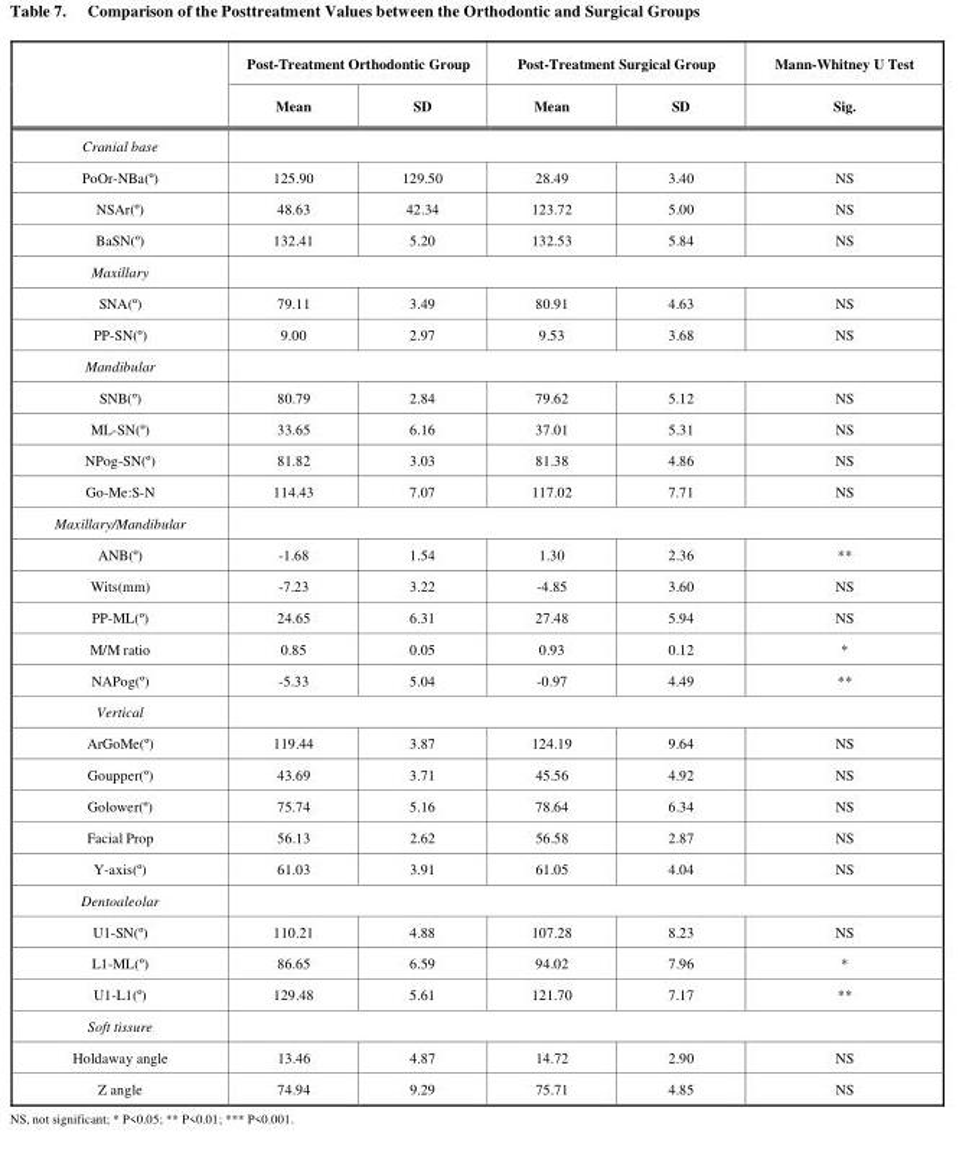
<table><thead><tr><td rowspan="2"></td><td colspan="2">Post-Treatment Orthodontic Group</td><td colspan="2">Post-Treatment Surgical Group</td><td rowspan="2">Mann-Whitney U Test Sig.</td></tr><tr><td>Mean</td><td>SD</td><td>Mean</td><td>SD</td></tr></thead><tbody><tr><td colspan="6">Cranial base</td></tr><tr><td>PoOr-NBa(º)</td><td>125.90</td><td>129.50</td><td>28.49</td><td>3.40</td><td>NS</td></tr><tr><td>NSAr(º)</td><td>48.63</td><td>42.34</td><td>123.72</td><td>5.00</td><td>NS</td></tr><tr><td>BaSN(º)</td><td>132.41</td><td>5.20</td><td>132.53</td><td>5.84</td><td>NS</td></tr><tr><td colspan="6">Maxillary</td></tr><tr><td>SNA(º)</td><td>79.11</td><td>3.49</td><td>80.91</td><td>4.63</td><td>NS</td></tr><tr><td>PP-SN(º)</td><td>9.00</td><td>2.97</td><td>9.53</td><td>3.68</td><td>NS</td></tr><tr><td colspan="6">Mandibular</td></tr><tr><td>SNB(º)</td><td>80.79</td><td>2.84</td><td>79.62</td><td>5.12</td><td>NS</td></tr><tr><td>ML-SN(º)</td><td>33.65</td><td>6.16</td><td>37.01</td><td>5.31</td><td>NS</td></tr><tr><td>NPog-SN(º)</td><td>81.82</td><td>3.03</td><td>81.38</td><td>4.86</td><td>NS</td></tr><tr><td>Go-Me:S-N</td><td>114.43</td><td>7.07</td><td>117.02</td><td>7.71</td><td>NS</td></tr><tr><td colspan="6">Maxillary/Mandibular</td></tr><tr><td>ANB(º)</td><td>-1.68</td><td>1.54</td><td>1.30</td><td>2.36</td><td>**</td></tr><tr><td>Wits(mm)</td><td>-7.23</td><td>3.22</td><td>-4.85</td><td>3.60</td><td>NS</td></tr><tr><td>PP-ML(º)</td><td>24.65</td><td>6.31</td><td>27.48</td><td>5.94</td><td>NS</td></tr><tr><td>M/M ratio</td><td>0.85</td><td>0.05</td><td>0.93</td><td>0.12</td><td>*</td></tr><tr><td>NAPog(º)</td><td>-5.33</td><td>5.04</td><td>-0.97</td><td>4.49</td><td>**</td></tr><tr><td colspan="6">Vertical</td></tr><tr><td>ArGoMe(º)</td><td>119.44</td><td>3.87</td><td>124.19</td><td>9.64</td><td>NS</td></tr><tr><td>Goupper(º)</td><td>43.69</td><td>3.71</td><td>45.56</td><td>4.92</td><td>NS</td></tr><tr><td>Golower(º)</td><td>75.74</td><td>5.16</td><td>78.64</td><td>6.34</td><td>NS</td></tr><tr><td>Facial Prop</td><td>56.13</td><td>2.62</td><td>56.58</td><td>2.87</td><td>NS</td></tr><tr><td>Y-axis(º)</td><td>61.03</td><td>3.91</td><td>61.05</td><td>4.04</td><td>NS</td></tr><tr><td colspan="6">Dentoaleolar</td></tr><tr><td>U1-SN(º)</td><td>110.21</td><td>4.88</td><td>107.28</td><td>8.23</td><td>NS</td></tr><tr><td>L1-ML(º)</td><td>86.65</td><td>6.59</td><td>94.02</td><td>7.96</td><td>*</td></tr><tr><td>U1-L1(º)</td><td>129.48</td><td>5.61</td><td>121.70</td><td>7.17</td><td>**</td></tr><tr><td colspan="6">Soft tissure</td></tr><tr><td>Holdaway angle</td><td>13.46</td><td>4.87</td><td>14.72</td><td>2.90</td><td>NS</td></tr><tr><td>Z angle</td><td>74.94</td><td>9.29</td><td>75.71</td><td>4.85</td><td>NS</td></tr></tbody></table>